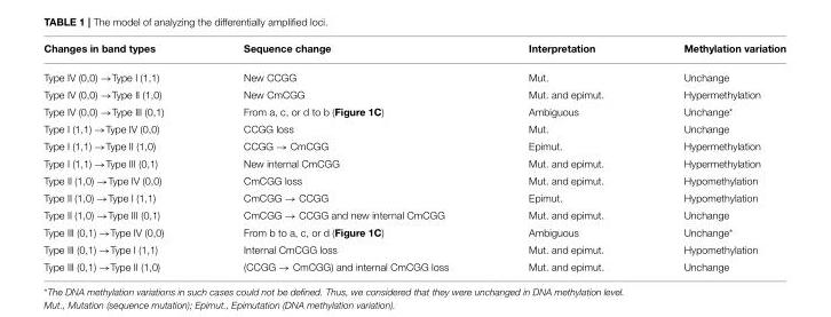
<table><thead><tr><td>Changes in band types</td><td>Sequence change</td><td>Interpretation</td><td>Methylation variation</td></tr></thead><tbody><tr><td>Type IV (0,0) →Type I (1,1)</td><td>New CCGG</td><td>Mut.</td><td>Unchange</td></tr><tr><td>Type IV (0,0) →Type II (1,0)</td><td>New CmCGG</td><td>Mut. and epimut.</td><td>Hypermethylation</td></tr><tr><td>Type IV (0,0) →Type III (0,1)</td><td>From a, c, or d to b (Figure 1C)</td><td>Ambiguous</td><td>Unchange*</td></tr><tr><td>Type I (1,1) →Type IV (0,0)</td><td>CCGG loss</td><td>Mut.</td><td>Unchange</td></tr><tr><td>Type I (1,1) →Type II (1,0)</td><td>CCGG → CmCGG</td><td>Epimut.</td><td>Hypermethylation</td></tr><tr><td>Type I (1,1) →Type III (0,1)</td><td>New internal CmCGG</td><td>Mut. and epimut.</td><td>Hypermethylation</td></tr><tr><td>Type II (1,0) →Type IV (0,0)</td><td>CmCGG loss</td><td>Mut. and epimut.</td><td>Hypomethylation</td></tr><tr><td>Type II (1,0) →Type I (1,1)</td><td>CmCGG → CCGG</td><td>Epimut.</td><td>Hypomethylation</td></tr><tr><td>Type II (1,0) →Type III (0,1)</td><td>CmCGG → CCGG and new internal CmCGG</td><td>Mut. and epimut.</td><td>Unchange</td></tr><tr><td>Type III (0,1) →Type IV (0,0)</td><td>From b to a, c, or d (Figure 1C)</td><td>Ambiguous</td><td>Unchange*</td></tr><tr><td>Type III (0,1) →Type I (1,1)</td><td>Internal CmCGG loss</td><td>Mut. and epimut.</td><td>Hypomethylation</td></tr><tr><td>Type III (0,1) →Type II (1,0)</td><td>(CCGG → CmCGG) and internal CmCGG loss</td><td>Mut. and epimut.</td><td>Unchange</td></tr></tbody></table>